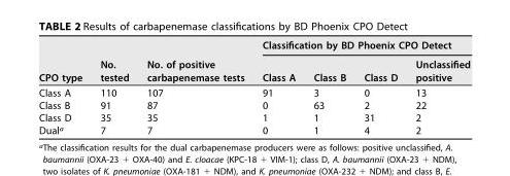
<table><thead><tr><td rowspan="2">CPO type</td><td rowspan="2">No. tested</td><td rowspan="2">No. of positive carbapenemase tests</td><td colspan="4">Classification by BD Phoenix CPO Detect</td></tr><tr><td>Class A</td><td>Class B</td><td>Class D</td><td>Unclassified positive</td></tr></thead><tbody><tr><td>Class A</td><td>110</td><td>107</td><td>91</td><td>3</td><td>0</td><td>13</td></tr><tr><td>Class B</td><td>91</td><td>87</td><td>0</td><td>63</td><td>2</td><td>22</td></tr><tr><td>Class D</td><td>35</td><td>35</td><td>1</td><td>1</td><td>31</td><td>2</td></tr><tr><td>Dual<sup>a</sup></td><td>7</td><td>7</td><td>0</td><td>1</td><td>4</td><td>2</td></tr></tbody></table>